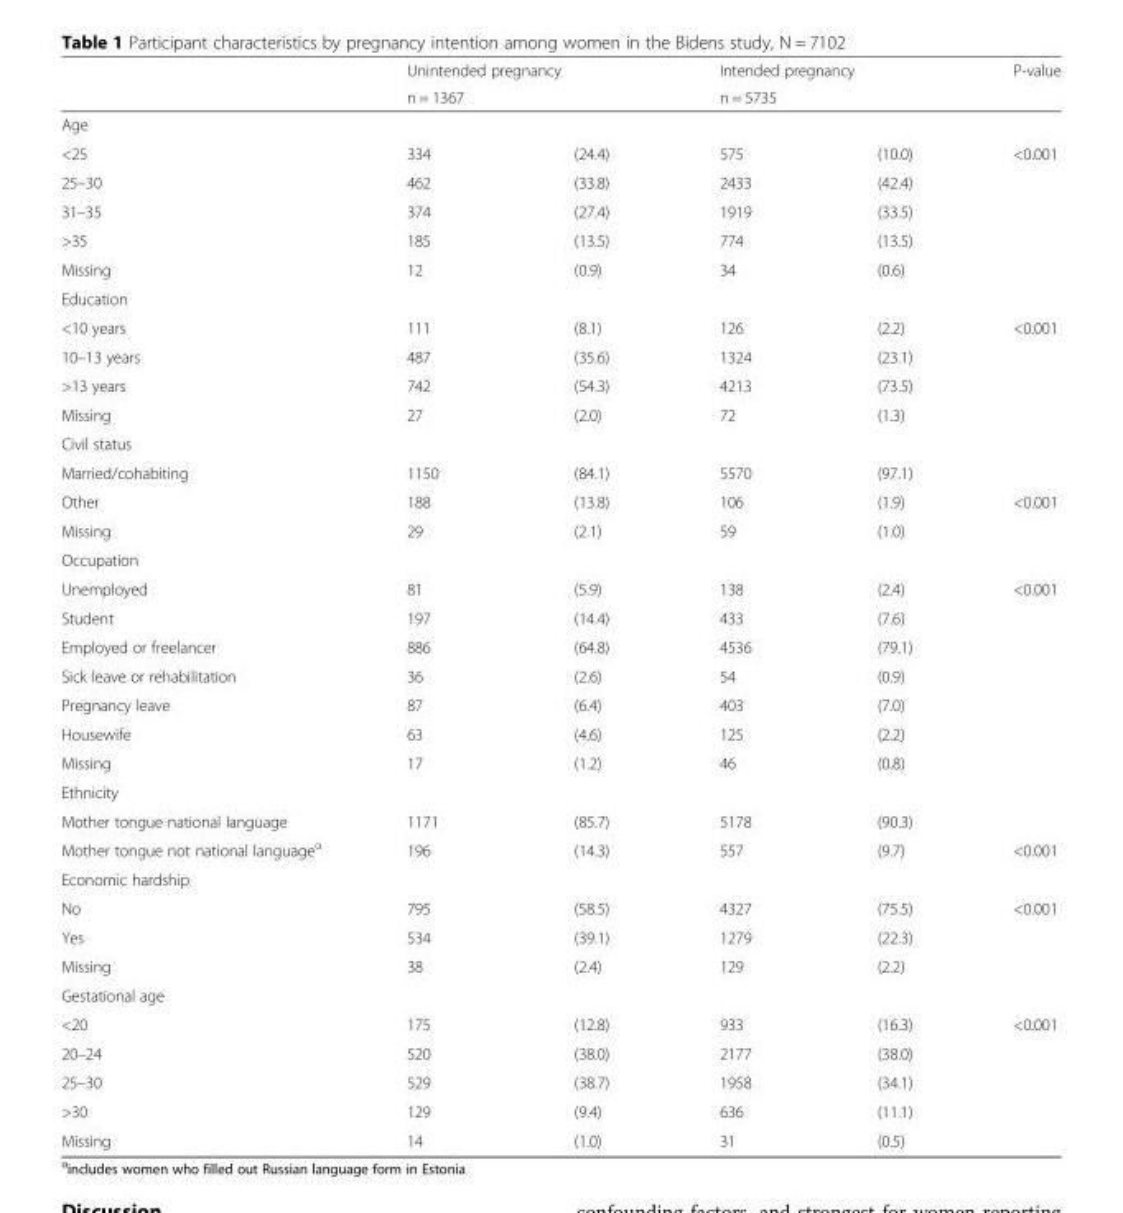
<table><thead><tr><td rowspan="2"></td><td colspan="2">Unintended pregnancy</td><td colspan="2">Intended pregnancy</td><td rowspan="2">P-value</td></tr><tr><td>n = 1367</td><td></td><td>n = 5735</td><td></td></tr></thead><tbody><tr><td colspan="6">Age</td></tr><tr><td>&lt;25</td><td>334</td><td>(24.4)</td><td>575</td><td>(10.0)</td><td>&lt;0.001</td></tr><tr><td>25–30</td><td>462</td><td>(33.8)</td><td>2433</td><td>(42.4)</td><td></td></tr><tr><td>31–35</td><td>374</td><td>(27.4)</td><td>1919</td><td>(33.5)</td><td></td></tr><tr><td>&gt;35</td><td>185</td><td>(13.5)</td><td>774</td><td>(13.5)</td><td></td></tr><tr><td>Missing</td><td>12</td><td>(0.9)</td><td>34</td><td>(0.6)</td><td></td></tr><tr><td colspan="6">Education</td></tr><tr><td>&lt;10 years</td><td>111</td><td>(8.1)</td><td>126</td><td>(2.2)</td><td>&lt;0.001</td></tr><tr><td>10–13 years</td><td>487</td><td>(35.6)</td><td>1324</td><td>(23.1)</td><td></td></tr><tr><td>&gt;13 years</td><td>742</td><td>(54.3)</td><td>4213</td><td>(73.5)</td><td></td></tr><tr><td>Missing</td><td>27</td><td>(2.0)</td><td>72</td><td>(1.3)</td><td></td></tr><tr><td colspan="6">Civil status</td></tr><tr><td>Married/cohabiting</td><td>1150</td><td>(84.1)</td><td>5570</td><td>(97.1)</td><td></td></tr><tr><td>Other</td><td>188</td><td>(13.8)</td><td>106</td><td>(1.9)</td><td>&lt;0.001</td></tr><tr><td>Missing</td><td>29</td><td>(2.1)</td><td>59</td><td>(1.0)</td><td></td></tr><tr><td colspan="6">Occupation</td></tr><tr><td>Unemployed</td><td>81</td><td>(5.9)</td><td>138</td><td>(2.4)</td><td>&lt;0.001</td></tr><tr><td>Student</td><td>197</td><td>(14.4)</td><td>433</td><td>(7.6)</td><td></td></tr><tr><td>Employed or freelancer</td><td>886</td><td>(64.8)</td><td>4536</td><td>(79.1)</td><td></td></tr><tr><td>Sick leave or rehabilitation</td><td>36</td><td>(2.6)</td><td>54</td><td>(0.9)</td><td></td></tr><tr><td>Pregnancy leave</td><td>87</td><td>(6.4)</td><td>403</td><td>(7.0)</td><td></td></tr><tr><td>Housewife</td><td>63</td><td>(4.6)</td><td>125</td><td>(2.2)</td><td></td></tr><tr><td>Missing</td><td>17</td><td>(1.2)</td><td>46</td><td>(0.8)</td><td></td></tr><tr><td colspan="6">Ethnicity</td></tr><tr><td>Mother tongue national language</td><td>1171</td><td>(85.7)</td><td>5178</td><td>(90.3)</td><td></td></tr><tr><td>Mother tongue not national language<sup>α</sup></td><td>196</td><td>(14.3)</td><td>557</td><td>(9.7)</td><td>&lt;0.001</td></tr><tr><td colspan="6">Economic hardship</td></tr><tr><td>No</td><td>795</td><td>(58.5)</td><td>4327</td><td>(75.5)</td><td>&lt;0.001</td></tr><tr><td>Yes</td><td>534</td><td>(39.1)</td><td>1279</td><td>(22.3)</td><td></td></tr><tr><td>Missing</td><td>38</td><td>(2.4)</td><td>129</td><td>(2.2)</td><td></td></tr><tr><td colspan="6">Gestational age</td></tr><tr><td>&lt;20</td><td>175</td><td>(12.8)</td><td>933</td><td>(16.3)</td><td>&lt;0.001</td></tr><tr><td>20–24</td><td>520</td><td>(38.0)</td><td>2177</td><td>(38.0)</td><td></td></tr><tr><td>25–30</td><td>529</td><td>(38.7)</td><td>1958</td><td>(34.1)</td><td></td></tr><tr><td>&gt;30</td><td>129</td><td>(9.4)</td><td>636</td><td>(11.1)</td><td></td></tr><tr><td>Missing</td><td>14</td><td>(1.0)</td><td>31</td><td>(0.5)</td><td></td></tr></tbody></table>